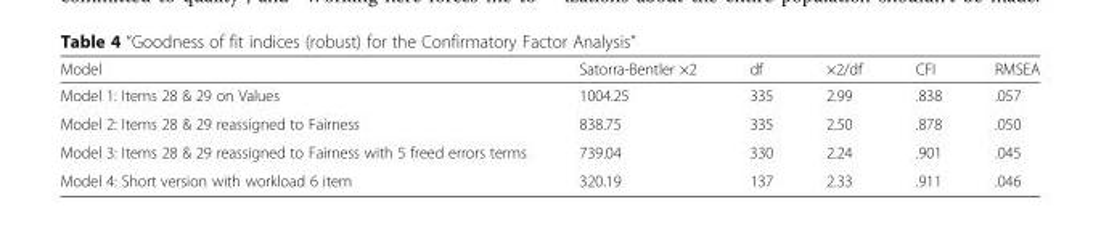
<table><thead><tr><td>Model</td><td>Satorra-Bentler ×2</td><td>df</td><td>×2/df</td><td>CFI</td><td>RMSEA</td></tr></thead><tbody><tr><td>Model 1: Items 28 &amp; 29 on Values</td><td>1004.25</td><td>335</td><td>2.99</td><td>.838</td><td>.057</td></tr><tr><td>Model 2: Items 28 &amp; 29 reassigned to Fairness</td><td>838.75</td><td>335</td><td>2.50</td><td>.878</td><td>.050</td></tr><tr><td>Model 3: Items 28 &amp; 29 reassigned to Fairness with 5 freed errors terms</td><td>739.04</td><td>330</td><td>2.24</td><td>.901</td><td>.045</td></tr><tr><td>Model 4: Short version with workload 6 item</td><td>320.19</td><td>137</td><td>2.33</td><td>.911</td><td>.046</td></tr></tbody></table>